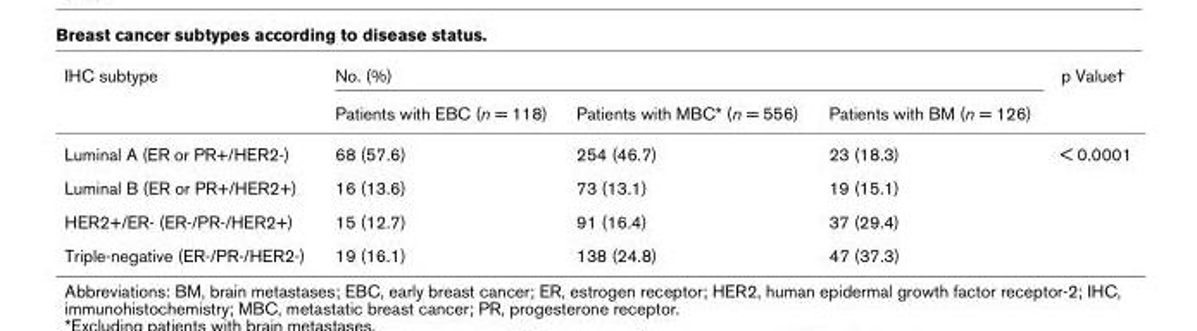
<table><thead><tr><td rowspan="2">IHC subtype</td><td colspan="3">No. (%)</td><td rowspan="2">p Value†</td></tr><tr><td>Patients with EBC (n = 118)</td><td>Patients with MBC* (n = 556)</td><td>Patients with BM (n = 126)</td></tr></thead><tbody><tr><td>Luminal A (ER or PR+/HER2-)</td><td>68 (57.6)</td><td>254 (46.7)</td><td>23 (18.3)</td><td>&lt; 0.0001</td></tr><tr><td>Luminal B (ER or PR+/HER2+)</td><td>16 (13.6)</td><td>73 (13.1)</td><td>19 (15.1)</td><td></td></tr><tr><td>HER2+/ER- (ER-/PR-/HER2+)</td><td>15 (12.7)</td><td>91 (16.4)</td><td>37 (29.4)</td><td></td></tr><tr><td>Triple-negative (ER-/PR-/HER2-)</td><td>19 (16.1)</td><td>138 (24.8)</td><td>47 (37.3)</td><td></td></tr></tbody></table>